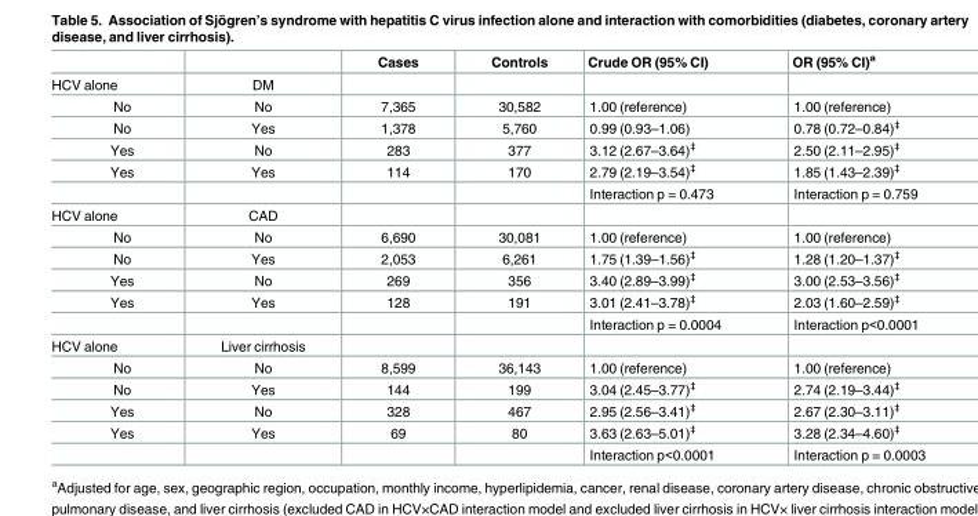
<table><thead><tr><td></td><td></td><td>Cases</td><td>Controls</td><td>Crude OR (95% CI)</td><td>OR (95% CI)<sup>a</sup></td></tr></thead><tbody><tr><td>HCV alone</td><td>DM</td><td></td><td></td><td></td><td></td></tr><tr><td>No</td><td>No</td><td>7,365</td><td>30,582</td><td>1.00 (reference)</td><td>1.00 (reference)</td></tr><tr><td>No</td><td>Yes</td><td>1,378</td><td>5,760</td><td>0.99 (0.93–1.06)</td><td>0.78 (0.72–0.84)<sup>‡</sup></td></tr><tr><td>Yes</td><td>No</td><td>283</td><td>377</td><td>3.12 (2.67–3.64)<sup>‡</sup></td><td>2.50 (2.11–2.95)<sup>‡</sup></td></tr><tr><td rowspan="2">Yes</td><td>Yes</td><td>114</td><td>170</td><td>2.79 (2.19–3.54)<sup>‡</sup></td><td>1.85 (1.43–2.39)<sup>‡</sup></td></tr><tr><td></td><td></td><td></td><td>Interaction p = 0.473</td><td>Interaction p = 0.759</td></tr><tr><td>HCV alone</td><td>CAD</td><td></td><td></td><td></td><td></td></tr><tr><td>No</td><td>No</td><td>6,690</td><td>30,081</td><td>1.00 (reference)</td><td>1.00 (reference)</td></tr><tr><td>No</td><td>Yes</td><td>2,053</td><td>6,261</td><td>1.75 (1.39–1.56)<sup>‡</sup></td><td>1.28 (1.20–1.37)<sup>‡</sup></td></tr><tr><td>Yes</td><td>No</td><td>269</td><td>356</td><td>3.40 (2.89–3.99)<sup>‡</sup></td><td>3.00 (2.53–3.56)<sup>‡</sup></td></tr><tr><td rowspan="2">Yes</td><td>Yes</td><td>128</td><td>191</td><td>3.01 (2.41–3.78)<sup>‡</sup></td><td>2.03 (1.60–2.59)<sup>‡</sup></td></tr><tr><td></td><td></td><td></td><td>Interaction p = 0.0004</td><td>Interaction p&lt;0.0001</td></tr><tr><td>HCV alone</td><td>Liver cirrhosis</td><td></td><td></td><td></td><td></td></tr><tr><td>No</td><td>No</td><td>8,599</td><td>36,143</td><td>1.00 (reference)</td><td>1.00 (reference)</td></tr><tr><td>No</td><td>Yes</td><td>144</td><td>199</td><td>3.04 (2.45–3.77)<sup>‡</sup></td><td>2.74 (2.19–3.44)<sup>‡</sup></td></tr><tr><td>Yes</td><td>No</td><td>328</td><td>467</td><td>2.95 (2.56–3.41)<sup>‡</sup></td><td>2.67 (2.30–3.11)<sup>‡</sup></td></tr><tr><td rowspan="2">Yes</td><td>Yes</td><td>69</td><td>80</td><td>3.63 (2.63–5.01)<sup>‡</sup></td><td>3.28 (2.34–4.60)<sup>‡</sup></td></tr><tr><td></td><td></td><td></td><td>Interaction p&lt;0.0001</td><td>Interaction p = 0.0003</td></tr></tbody></table>